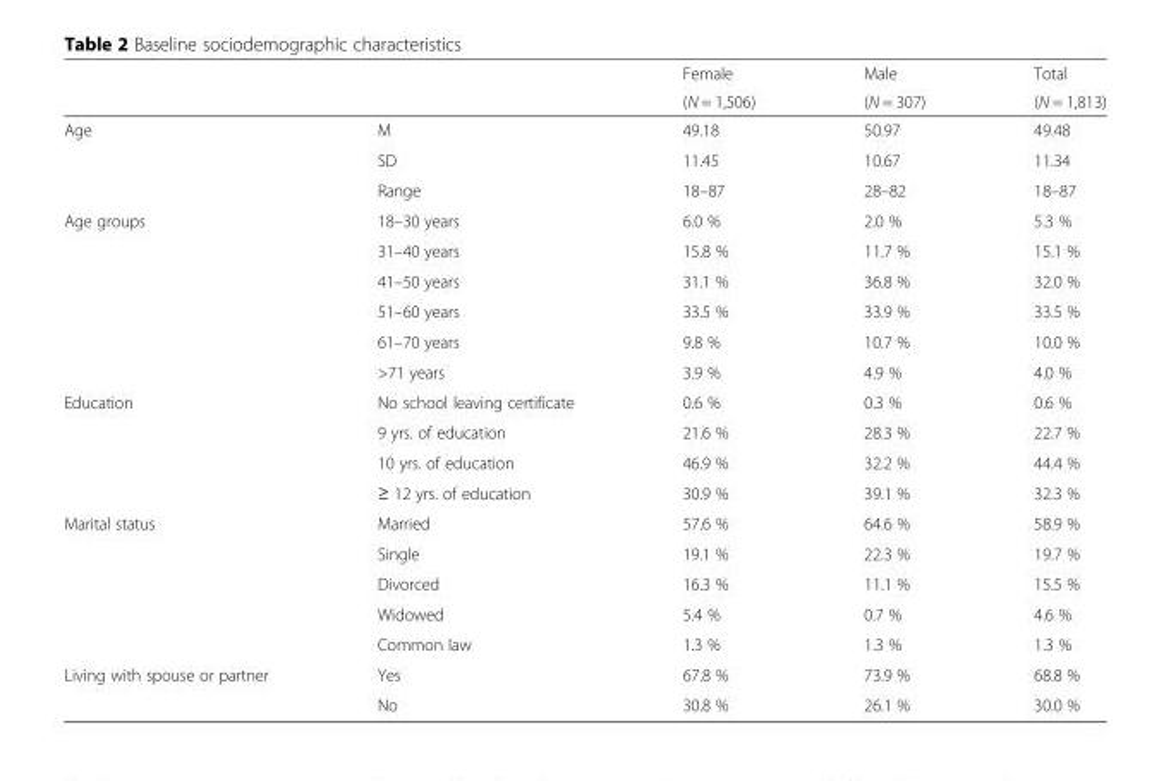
<table><thead><tr><td rowspan="2"></td><td rowspan="2"></td><td rowspan="2">Female (N = 1,506)</td><td rowspan="2">Male (N = 307)</td><td rowspan="2">Total (N = 1,813)</td></tr><tr></tr></thead><tbody><tr><td rowspan="3">Age</td><td>M</td><td>49.18</td><td>50.97</td><td>49.48</td></tr><tr><td>SD</td><td>11.45</td><td>10.67</td><td>11.34</td></tr><tr><td>Range</td><td>18–87</td><td>28–82</td><td>18–87</td></tr><tr><td rowspan="6">Age groups</td><td>18–30 years</td><td>6.0 %</td><td>2.0 %</td><td>5.3 %</td></tr><tr><td>31–40 years</td><td>15.8 %</td><td>11.7 %</td><td>15.1 %</td></tr><tr><td>41–50 years</td><td>31.1 %</td><td>36.8 %</td><td>32.0 %</td></tr><tr><td>51–60 years</td><td>33.5 %</td><td>33.9 %</td><td>33.5 %</td></tr><tr><td>61–70 years</td><td>9.8 %</td><td>10.7 %</td><td>10.0 %</td></tr><tr><td>&gt;71 years</td><td>3.9 %</td><td>4.9 %</td><td>4.0 %</td></tr><tr><td rowspan="4">Education</td><td>No school leaving certificate</td><td>0.6 %</td><td>0.3 %</td><td>0.6 %</td></tr><tr><td>9 yrs. of education</td><td>21.6 %</td><td>28.3 %</td><td>22.7 %</td></tr><tr><td>10 yrs. of education</td><td>46.9 %</td><td>32.2 %</td><td>44.4 %</td></tr><tr><td>≥ 12 yrs. of education</td><td>30.9 %</td><td>39.1 %</td><td>32.3 %</td></tr><tr><td rowspan="5">Marital status</td><td>Married</td><td>57.6 %</td><td>64.6 %</td><td>58.9 %</td></tr><tr><td>Single</td><td>19.1 %</td><td>22.3 %</td><td>19.7 %</td></tr><tr><td>Divorced</td><td>16.3 %</td><td>11.1 %</td><td>15.5 %</td></tr><tr><td>Widowed</td><td>5.4 %</td><td>0.7 %</td><td>4.6 %</td></tr><tr><td>Common law</td><td>1.3 %</td><td>1.3 %</td><td>1.3 %</td></tr><tr><td rowspan="2">Living with spouse or partner</td><td>Yes</td><td>67.8 %</td><td>73.9 %</td><td>68.8 %</td></tr><tr><td>No</td><td>30.8 %</td><td>26.1 %</td><td>30.0 %</td></tr></tbody></table>